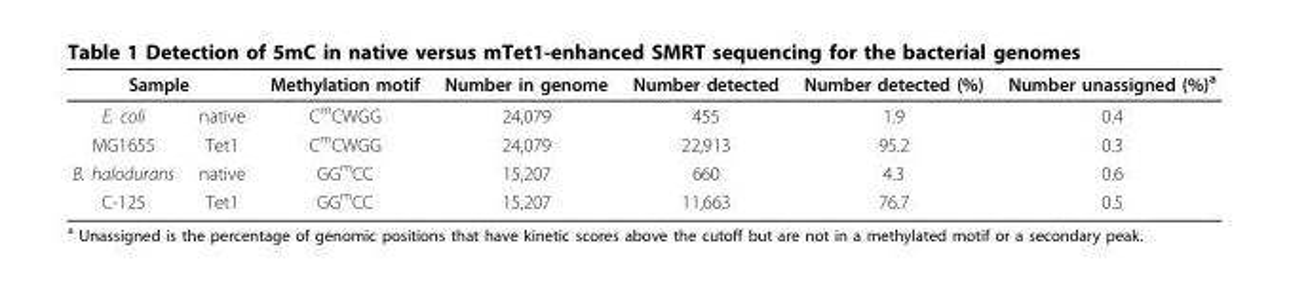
<table><thead><tr><td colspan="2">Sample</td><td rowspan="2">Methylation motif C<sup>m</sup>CWGG</td><td rowspan="2">Number in genome 24,079</td><td rowspan="2">Number detected 455</td><td rowspan="2">Number detected (%) 1.9</td><td rowspan="2">Number unassigned (%)<sup>a</sup> 0.4</td></tr><tr><td>E. coli</td><td>native</td></tr></thead><tbody><tr><td>MG1655</td><td>Tet1</td><td>C<sup>m</sup>CWGG</td><td>24,079</td><td>22,913</td><td>95.2</td><td>0.3</td></tr><tr><td>B. halodurans</td><td>native</td><td>GG<sup>m</sup>CC</td><td>15,207</td><td>660</td><td>4.3</td><td>0.6</td></tr><tr><td>C-125</td><td>Tet1</td><td>GG<sup>m</sup>CC</td><td>15,207</td><td>11,663</td><td>76.7</td><td>0.5</td></tr></tbody></table>